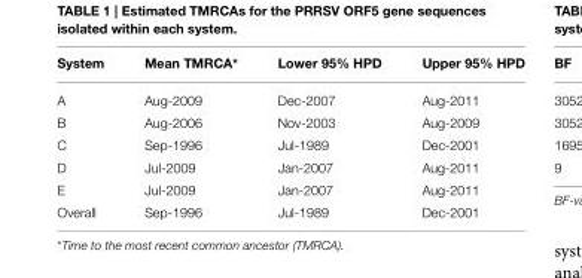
<table><thead><tr><td>System</td><td>Mean TMRCA*</td><td>Lower 95% HPD</td><td>Upper 95% HPD</td></tr></thead><tbody><tr><td>A</td><td>Aug-2009</td><td>Dec-2007</td><td>Aug-2011</td></tr><tr><td>B</td><td>Aug-2006</td><td>Nov-2003</td><td>Aug-2009</td></tr><tr><td>C</td><td>Sep-1996</td><td>Jul-1989</td><td>Dec-2001</td></tr><tr><td>D</td><td>Jul-2009</td><td>Jan-2007</td><td>Aug-2011</td></tr><tr><td>E</td><td>Jul-2009</td><td>Jan-2007</td><td>Aug-2011</td></tr><tr><td>Overall</td><td>Sep-1996</td><td>Jul-1989</td><td>Dec-2001</td></tr></tbody></table>